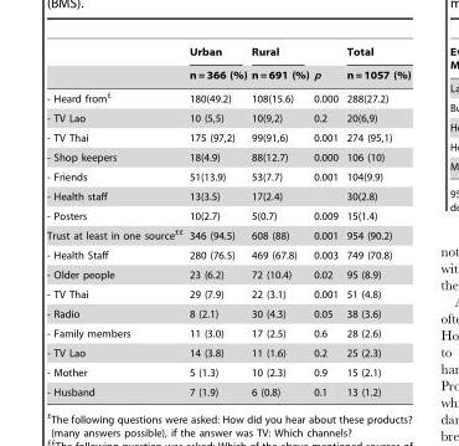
<table><thead><tr><td rowspan="2"></td><td rowspan="2">Urban n = 366 (%)</td><td rowspan="2">Rural n = 691 (%)</td><td rowspan="2">p</td><td rowspan="2">Total n = 1057 (%)</td></tr><tr></tr></thead><tbody><tr><td>- Heard from£</td><td>180(49.2)</td><td>108(15.6)</td><td>0.000</td><td>288(27.2)</td></tr><tr><td>- TV Lao</td><td>10 (5,5)</td><td>10(9,2)</td><td>0.2</td><td>20(6,9)</td></tr><tr><td>- TV Thai</td><td>175 (97,2)</td><td>99(91,6)</td><td>0.001</td><td>274 (95,1)</td></tr><tr><td>- Shop keepers</td><td>18(4.9)</td><td>88(12.7)</td><td>0.000</td><td>106 (10)</td></tr><tr><td>- Friends</td><td>51(13.9)</td><td>53(7.7)</td><td>0.001</td><td>104(9.9)</td></tr><tr><td>- Health staff</td><td>13(3.5)</td><td>17(2.4)</td><td></td><td>30(2.8)</td></tr><tr><td>- Posters</td><td>10(2.7)</td><td>5(0.7)</td><td>0.009</td><td>15(1.4)</td></tr><tr><td>Trust at least in one source££</td><td>346 (94.5)</td><td>608 (88)</td><td>0.001</td><td>954 (90.2)</td></tr><tr><td>- Health Staff</td><td>280 (76.5)</td><td>469 (67.8)</td><td>0.003</td><td>749 (70.8)</td></tr><tr><td>- Older people</td><td>23 (6.2)</td><td>72 (10.4)</td><td>0.02</td><td>95 (8.9)</td></tr><tr><td>- TV Thai</td><td>29 (7.9)</td><td>22 (3.1)</td><td>0.001</td><td>51 (4.8)</td></tr><tr><td>- Radio</td><td>8 (2.1)</td><td>30 (4.3)</td><td>0.05</td><td>38 (3.6)</td></tr><tr><td>- Family members</td><td>11 (3.0)</td><td>17 (2.5)</td><td>0.6</td><td>28 (2.6)</td></tr><tr><td>- TV Lao</td><td>14 (3.8)</td><td>11 (1.6)</td><td>0.2</td><td>25 (2.3)</td></tr><tr><td>- Mother</td><td>5 (1.3)</td><td>10 (2.3)</td><td>0.9</td><td>15 (2.1)</td></tr><tr><td>- Husband</td><td>7 (1.9)</td><td>6 (0.8)</td><td>0.1</td><td>13 (1.2)</td></tr></tbody></table>